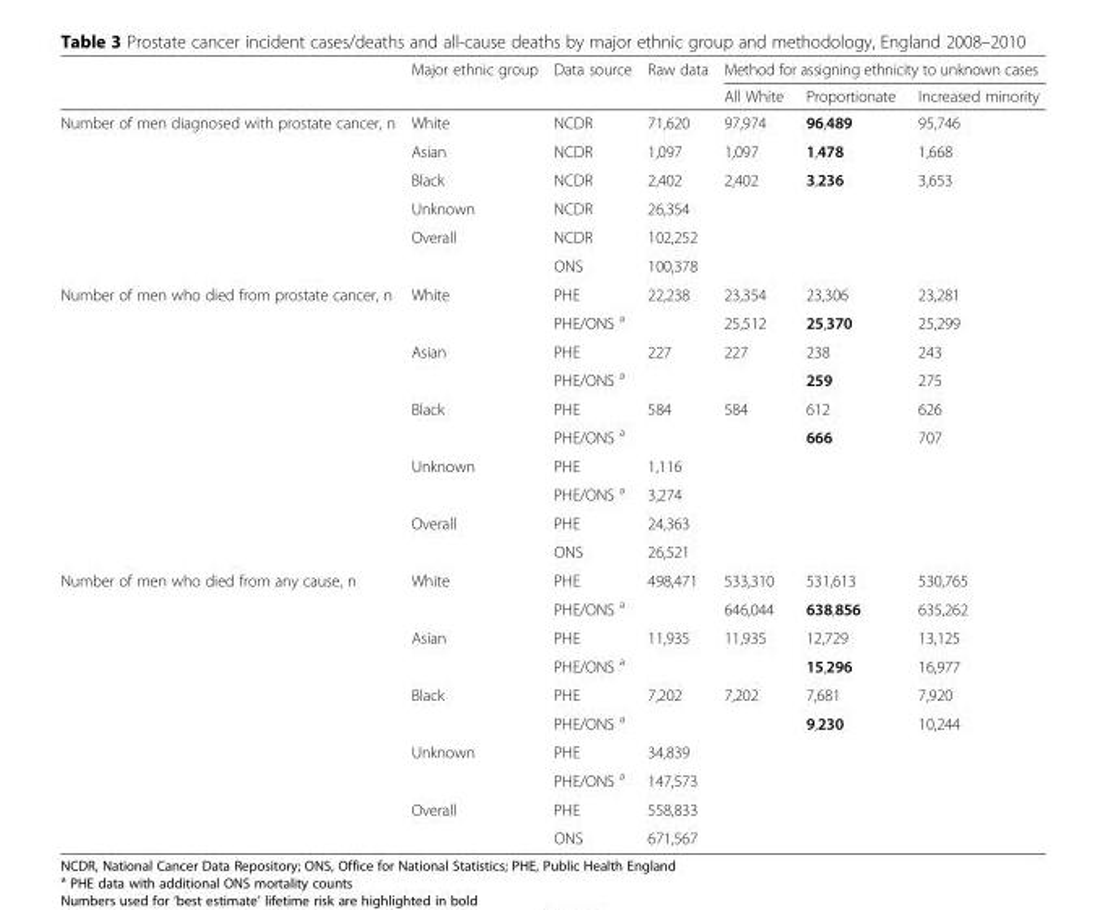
<table><thead><tr><td rowspan="2"></td><td rowspan="2">Major ethnic group</td><td rowspan="2">Data source</td><td rowspan="2">Raw data</td><td colspan="3">Method for assigning ethnicity to unknown cases</td></tr><tr><td>All White</td><td>Proportionate</td><td>Increased minority</td></tr></thead><tbody><tr><td rowspan="6">Number of men diagnosed with prostate cancer, n</td><td>White</td><td>NCDR</td><td>71,620</td><td>97,974</td><td>96,489</td><td>95,746</td></tr><tr><td>Asian</td><td>NCDR</td><td>1,097</td><td>1,097</td><td>1,478</td><td>1,668</td></tr><tr><td>Black</td><td>NCDR</td><td>2,402</td><td>2,402</td><td>3,236</td><td>3,653</td></tr><tr><td>Unknown</td><td>NCDR</td><td>26,354</td><td></td><td></td><td></td></tr><tr><td rowspan="2">Overall</td><td>NCDR</td><td>102,252</td><td></td><td></td><td></td></tr><tr><td>ONS</td><td>100,378</td><td></td><td></td><td></td></tr><tr><td rowspan="10">Number of men who died from prostate cancer, n</td><td rowspan="2">White</td><td>PHE</td><td>22,238</td><td>23,354</td><td>23,306</td><td>23,281</td></tr><tr><td>PHE/ONS <sup>a</sup></td><td></td><td>25,512</td><td>25,370</td><td>25,299</td></tr><tr><td rowspan="2">Asian</td><td>PHE</td><td>227</td><td>227</td><td>238</td><td>243</td></tr><tr><td>PHE/ONS <sup>a</sup></td><td></td><td></td><td>259</td><td>275</td></tr><tr><td rowspan="2">Black</td><td>PHE</td><td>584</td><td>584</td><td>612</td><td>626</td></tr><tr><td>PHE/ONS <sup>a</sup></td><td></td><td></td><td>666</td><td>707</td></tr><tr><td rowspan="2">Unknown</td><td>PHE</td><td>1,116</td><td></td><td></td><td></td></tr><tr><td>PHE/ONS <sup>a</sup></td><td>3,274</td><td></td><td></td><td></td></tr><tr><td rowspan="2">Overall</td><td>PHE</td><td>24,363</td><td></td><td></td><td></td></tr><tr><td>ONS</td><td>26,521</td><td></td><td></td><td></td></tr><tr><td rowspan="10">Number of men who died from any cause, n</td><td rowspan="2">White</td><td>PHE</td><td>498,471</td><td>533,310</td><td>531,613</td><td>530,765</td></tr><tr><td>PHE/ONS <sup>a</sup></td><td></td><td>646,044</td><td>638,856</td><td>635,262</td></tr><tr><td rowspan="2">Asian</td><td>PHE</td><td>11,935</td><td>11,935</td><td>12,729</td><td>13,125</td></tr><tr><td>PHE/ONS <sup>a</sup></td><td></td><td></td><td>15,296</td><td>16,977</td></tr><tr><td rowspan="2">Black</td><td>PHE</td><td>7,202</td><td>7,202</td><td>7,681</td><td>7,920</td></tr><tr><td>PHE/ONS <sup>a</sup></td><td></td><td></td><td>9,230</td><td>10,244</td></tr><tr><td rowspan="2">Unknown</td><td>PHE</td><td>34,839</td><td></td><td></td><td></td></tr><tr><td>PHE/ONS <sup>a</sup></td><td>147,573</td><td></td><td></td><td></td></tr><tr><td rowspan="2">Overall</td><td>PHE</td><td>558,833</td><td></td><td></td><td></td></tr><tr><td>ONS</td><td>671,567</td><td></td><td></td><td></td></tr></tbody></table>